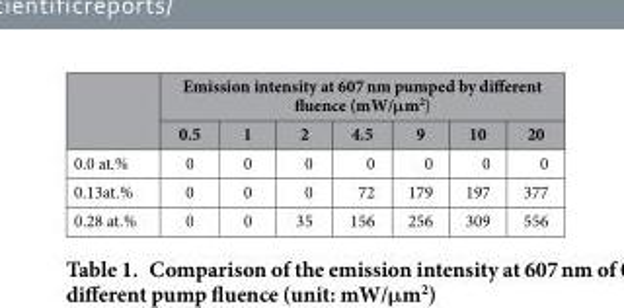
<table><thead><tr><td rowspan="2"></td><td colspan="7">Emission intensity at 607 nm pumped by different fluence (mW/μm<sup>2</sup>)</td></tr><tr><td>0.5</td><td>1</td><td>2</td><td>4.5</td><td>9</td><td>10</td><td>20</td></tr></thead><tbody><tr><td>0.0 at.%</td><td>0</td><td>0</td><td>0</td><td>0</td><td>0</td><td>0</td><td>0</td></tr><tr><td>0.13at.%</td><td>0</td><td>0</td><td>0</td><td>72</td><td>179</td><td>197</td><td>377</td></tr><tr><td>0.28 at.%</td><td>0</td><td>0</td><td>35</td><td>156</td><td>256</td><td>309</td><td>556</td></tr></tbody></table>